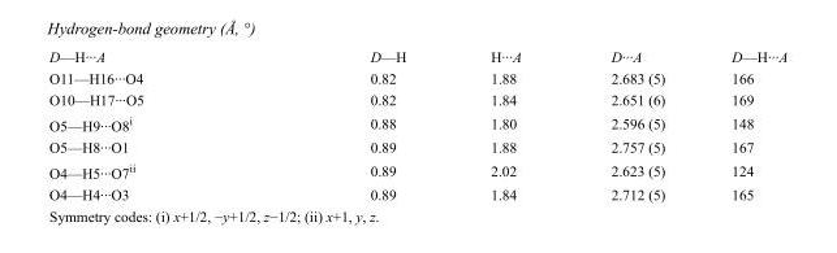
<table><tbody><tr><td>D—H···A</td><td>D—H</td><td>H···A</td><td>D···A</td><td>D—H···A</td></tr><tr><td>O11—H16···O4</td><td>0.82</td><td>1.88</td><td>2.683 (5)</td><td>166</td></tr><tr><td>O10—H17···O5</td><td>0.82</td><td>1.84</td><td>2.651 (6)</td><td>169</td></tr><tr><td>O5—H9···O8<sup>i</sup></td><td>0.88</td><td>1.80</td><td>2.596 (5)</td><td>148</td></tr><tr><td>O5—H8···O1</td><td>0.89</td><td>1.88</td><td>2.757 (5)</td><td>167</td></tr><tr><td>O4—H5···O7<sup>ii</sup></td><td>0.89</td><td>2.02</td><td>2.623 (5)</td><td>124</td></tr><tr><td>O4—H4···O3</td><td>0.89</td><td>1.84</td><td>2.712 (5)</td><td>165</td></tr></tbody></table>